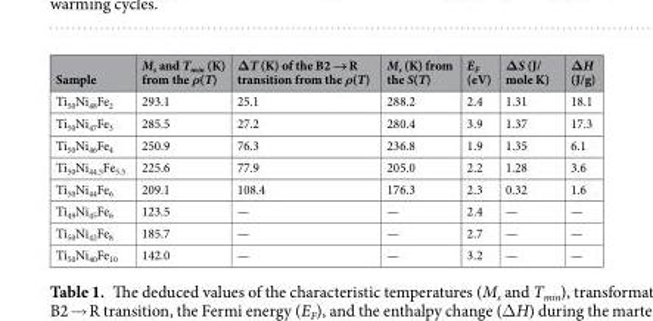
<table><thead><tr><td>Sample</td><td>M<sub>s</sub> and T<sub>min</sub> (K) from the ρ(T)</td><td>ΔT (K) of the B2 → R transition from the ρ(T)</td><td>M<sub>s</sub> (K) from the S(T)</td><td>E<sub>F</sub> (eV)</td><td>ΔS (J/ mole K)</td><td>ΔH (J/g)</td></tr></thead><tbody><tr><td>Ti<sub>50</sub>Ni<sub>48</sub>Fe<sub>2</sub></td><td>293.1</td><td>25.1</td><td>288.2</td><td>2.4</td><td>1.31</td><td>18.1</td></tr><tr><td>Ti<sub>50</sub>Ni<sub>47</sub>Fe<sub>3</sub></td><td>285.5</td><td>27.2</td><td>280.4</td><td>3.9</td><td>1.37</td><td>17.3</td></tr><tr><td>Ti<sub>50</sub>Ni<sub>46</sub>Fe<sub>4</sub></td><td>250.9</td><td>76.3</td><td>236.8</td><td>1.9</td><td>1.35</td><td>6.1</td></tr><tr><td>Ti<sub>50</sub>Ni<sub>44.5</sub>Fe<sub>5.5</sub></td><td>225.6</td><td>77.9</td><td>205.0</td><td>2.2</td><td>1.28</td><td>3.6</td></tr><tr><td>Ti<sub>50</sub>Ni<sub>44</sub>Fe<sub>6</sub></td><td>209.1</td><td>108.4</td><td>176.3</td><td>2.3</td><td>0.32</td><td>1.6</td></tr><tr><td>Ti<sub>49</sub>Ni<sub>45</sub>Fe<sub>6</sub></td><td>123.5</td><td>—</td><td>—</td><td>2.4</td><td>—</td><td>—</td></tr><tr><td>Ti<sub>50</sub>Ni<sub>42</sub>Fe<sub>8</sub></td><td>185.7</td><td>—</td><td>—</td><td>2.7</td><td>—</td><td>—</td></tr><tr><td>Ti<sub>50</sub>Ni<sub>40</sub>Fe<sub>10</sub></td><td>142.0</td><td>—</td><td>—</td><td>3.2</td><td>—</td><td>—</td></tr></tbody></table>